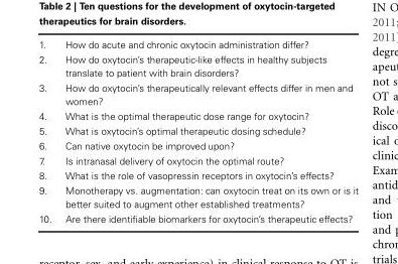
<table><tbody><tr><td>1.</td><td>How do acute and chronic oxytocin administration differ?</td></tr><tr><td>2.</td><td>How do oxytocin’s therapeutic-like effects in healthy subjects translate to patient with brain disorders?</td></tr><tr><td>3.</td><td>How do oxytocin’s therapeutically relevant effects differ in men and women?</td></tr><tr><td>4.</td><td>What is the optimal therapeutic dose range for oxytocin?</td></tr><tr><td>5.</td><td>What is oxytocin’s optimal therapeutic dosing schedule?</td></tr><tr><td>6.</td><td>Can native oxytocin be improved upon?</td></tr><tr><td>7.</td><td>Is intranasal delivery of oxytocin the optimal route?</td></tr><tr><td>8.</td><td>What is the role of vasopressin receptors in oxytocin’s effects?</td></tr><tr><td>9.</td><td>Monotherapy vs. augmentation: can oxytocin treat on its own or is it better suited to augment other established treatments?</td></tr><tr><td>10.</td><td>Are there identifiable biomarkers for oxytocin’s therapeutic effects?</td></tr></tbody></table>